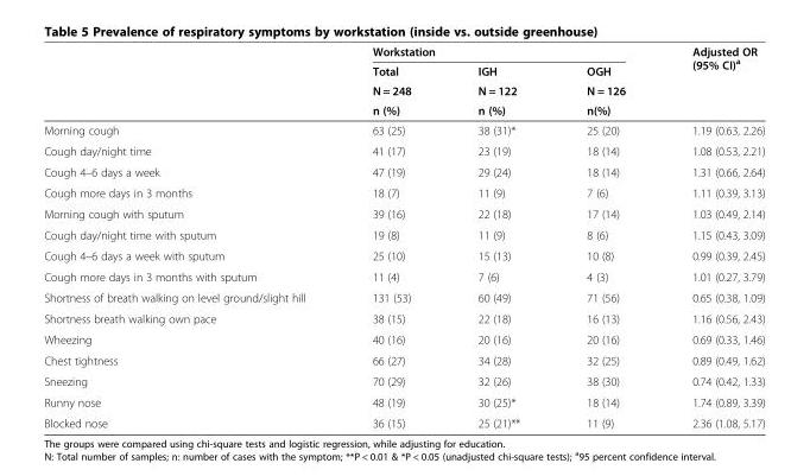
<table><thead><tr><td rowspan="4"></td><td colspan="3">Workstation</td><td rowspan="4">Adjusted OR (95% CI)<sup>a</sup></td></tr><tr><td rowspan="3">Total N = 248 n (%)</td><td rowspan="3">IGH N = 122 n (%)</td><td rowspan="3">OGH N = 126 n(%)</td></tr><tr></tr><tr></tr></thead><tbody><tr><td>Morning cough</td><td>63 (25)</td><td>38 (31)*</td><td>25 (20)</td><td>1.19 (0.63, 2.26)</td></tr><tr><td>Cough day/night time</td><td>41 (17)</td><td>23 (19)</td><td>18 (14)</td><td>1.08 (0.53, 2.21)</td></tr><tr><td>Cough 4–6 days a week</td><td>47 (19)</td><td>29 (24)</td><td>18 (14)</td><td>1.31 (0.66, 2.64)</td></tr><tr><td>Cough more days in 3 months</td><td>18 (7)</td><td>11 (9)</td><td>7 (6)</td><td>1.11 (0.39, 3.13)</td></tr><tr><td>Morning cough with sputum</td><td>39 (16)</td><td>22 (18)</td><td>17 (14)</td><td>1.03 (0.49, 2.14)</td></tr><tr><td>Cough day/night time with sputum</td><td>19 (8)</td><td>11 (9)</td><td>8 (6)</td><td>1.15 (0.43, 3.09)</td></tr><tr><td>Cough 4–6 days a week with sputum</td><td>25 (10)</td><td>15 (13)</td><td>10 (8)</td><td>0.99 (0.39, 2.45)</td></tr><tr><td>Cough more days in 3 months with sputum</td><td>11 (4)</td><td>7 (6)</td><td>4 (3)</td><td>1.01 (0.27, 3.79)</td></tr><tr><td>Shortness of breath walking on level ground/slight hill</td><td>131 (53)</td><td>60 (49)</td><td>71 (56)</td><td>0.65 (0.38, 1.09)</td></tr><tr><td>Shortness breath walking own pace</td><td>38 (15)</td><td>22 (18)</td><td>16 (13)</td><td>1.16 (0.56, 2.43)</td></tr><tr><td>Wheezing</td><td>40 (16)</td><td>20 (16)</td><td>20 (16)</td><td>0.69 (0.33, 1.46)</td></tr><tr><td>Chest tightness</td><td>66 (27)</td><td>34 (28)</td><td>32 (25)</td><td>0.89 (0.49, 1.62)</td></tr><tr><td>Sneezing</td><td>70 (29)</td><td>32 (26)</td><td>38 (30)</td><td>0.74 (0.42, 1.33)</td></tr><tr><td>Runny nose</td><td>48 (19)</td><td>30 (25)*</td><td>18 (14)</td><td>1.74 (0.89, 3.39)</td></tr><tr><td>Blocked nose</td><td>36 (15)</td><td>25 (21)**</td><td>11 (9)</td><td>2.36 (1.08, 5.17)</td></tr></tbody></table>